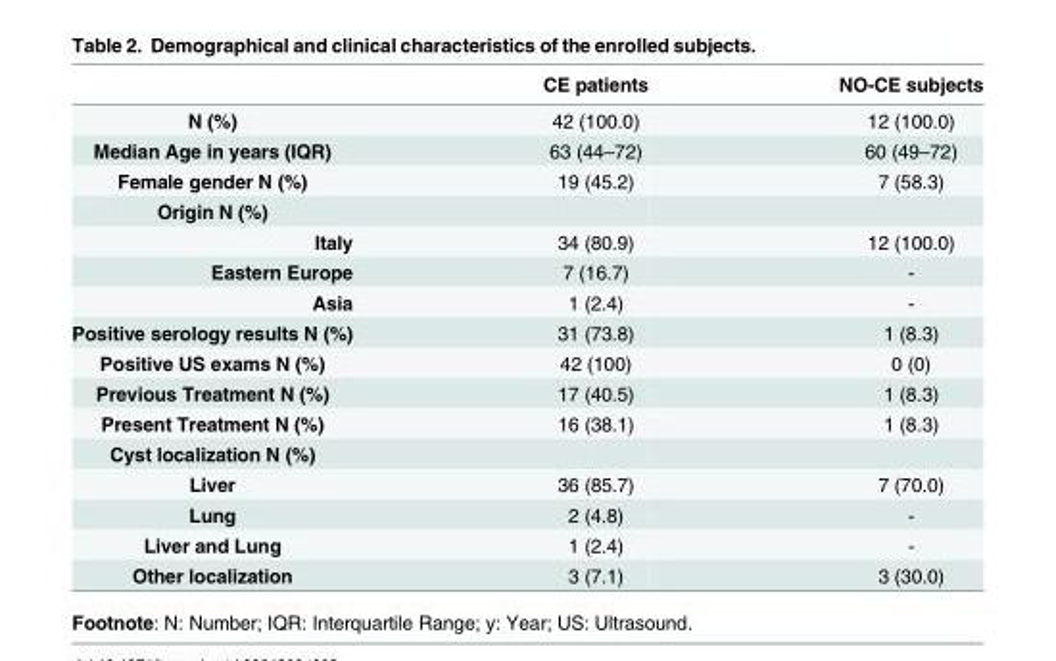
<table><thead><tr><td></td><td>CE patients</td><td>NO-CE subjects</td></tr></thead><tbody><tr><td>N (%)</td><td>42 (100.0)</td><td>12 (100.0)</td></tr><tr><td>Median Age in years (IQR)</td><td>63 (44–72)</td><td>60 (49–72)</td></tr><tr><td>Female gender N (%)</td><td>19 (45.2)</td><td>7 (58.3)</td></tr><tr><td colspan="3">Origin N (%)</td></tr><tr><td>Italy</td><td>34 (80.9)</td><td>12 (100.0)</td></tr><tr><td>Eastern Europe</td><td>7 (16.7)</td><td>-</td></tr><tr><td>Asia</td><td>1 (2.4)</td><td>-</td></tr><tr><td>Positive serology results N (%)</td><td>31 (73.8)</td><td>1 (8.3)</td></tr><tr><td>Positive US exams N (%)</td><td>42 (100)</td><td>0 (0)</td></tr><tr><td>Previous Treatment N (%)</td><td>17 (40.5)</td><td>1 (8.3)</td></tr><tr><td>Present Treatment N (%)</td><td>16 (38.1)</td><td>1 (8.3)</td></tr><tr><td colspan="3">Cyst localization N (%)</td></tr><tr><td>Liver</td><td>36 (85.7)</td><td>7 (70.0)</td></tr><tr><td>Lung</td><td>2 (4.8)</td><td>-</td></tr><tr><td>Liver and Lung</td><td>1 (2.4)</td><td>-</td></tr><tr><td>Other localization</td><td>3 (7.1)</td><td>3 (30.0)</td></tr></tbody></table>